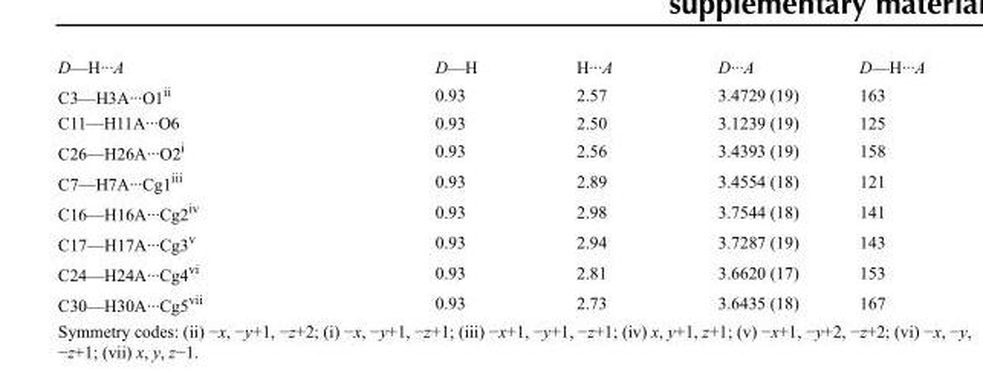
<table><tbody><tr><td>D—H···A</td><td>D—H</td><td>H···A</td><td>D···A</td><td>D—H···A</td></tr><tr><td>C3—H3A···O1<sup>ii</sup></td><td>0.93</td><td>2.57</td><td>3.4729 (19)</td><td>163</td></tr><tr><td>C11—H11A···O6</td><td>0.93</td><td>2.50</td><td>3.1239 (19)</td><td>125</td></tr><tr><td>C26—H26A···O2<sup>i</sup></td><td>0.93</td><td>2.56</td><td>3.4393 (19)</td><td>158</td></tr><tr><td>C7—H7A···Cg1<sup>iii</sup></td><td>0.93</td><td>2.89</td><td>3.4554 (18)</td><td>121</td></tr><tr><td>C16—H16A···Cg2<sup>iv</sup></td><td>0.93</td><td>2.98</td><td>3.7544 (18)</td><td>141</td></tr><tr><td>C17—H17A···Cg3<sup>v</sup></td><td>0.93</td><td>2.94</td><td>3.7287 (19)</td><td>143</td></tr><tr><td>C24—H24A···Cg4<sup>vi</sup></td><td>0.93</td><td>2.81</td><td>3.6620 (17)</td><td>153</td></tr><tr><td>C30—H30A···Cg5<sup>vii</sup></td><td>0.93</td><td>2.73</td><td>3.6435 (18)</td><td>167</td></tr></tbody></table>